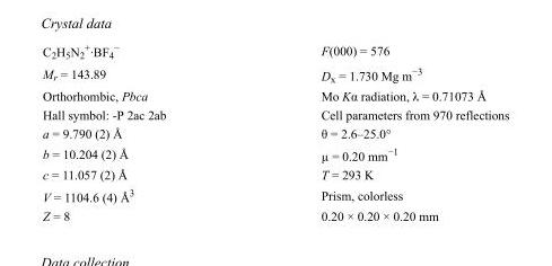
<table><tbody><tr><td>C<sub>2</sub>H<sub>5</sub>N<sub>2</sub> <sup>+</sup>·BF<sub>4</sub> <sup>−</sup></td><td>F(000) = 576</td></tr><tr><td>M<sub>r</sub> = 143.89</td><td>D<sub>x</sub> = 1.730 Mg m<sup>−3</sup></td></tr><tr><td>Orthorhombic, Pbca</td><td>Mo Kα radiation, λ = 0.71073 Å</td></tr><tr><td>Hall symbol: -P 2ac 2ab</td><td>Cell parameters from 970 reflections</td></tr><tr><td>a = 9.790 (2) Å</td><td>θ = 2.6–25.0°</td></tr><tr><td>b = 10.204 (2) Å</td><td>µ = 0.20 mm<sup>−1</sup></td></tr><tr><td>c = 11.057 (2) Å</td><td>T = 293 K</td></tr><tr><td>V = 1104.6 (4) Å<sup>3</sup></td><td>Prism, colorless</td></tr><tr><td>Z = 8</td><td>0.20 × 0.20 × 0.20 mm</td></tr></tbody></table>